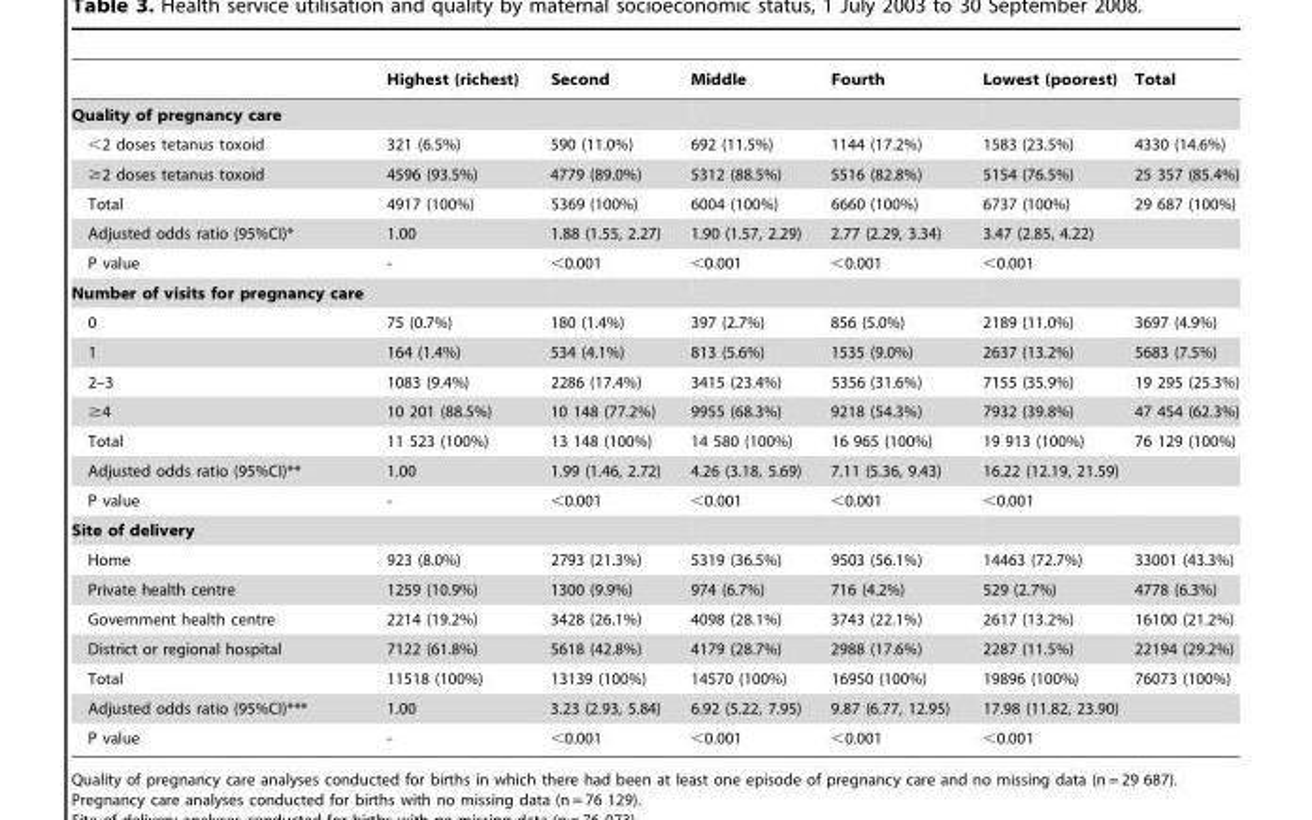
<table><thead><tr><td></td><td>Highest (richest)</td><td>Second</td><td>Middle</td><td>Fourth</td><td>Lowest (poorest)</td><td>Total</td></tr></thead><tbody><tr><td colspan="7">Quality of pregnancy care</td></tr><tr><td>&lt;2 doses tetanus toxoid</td><td>321 (6.5%)</td><td>590 (11.0%)</td><td>692 (11.5%)</td><td>1144 (17.2%)</td><td>1583 (23.5%)</td><td>4330 (14.6%)</td></tr><tr><td>≥2 doses tetanus toxoid</td><td>4596 (93.5%)</td><td>4779 (89.0%)</td><td>5312 (88.5%)</td><td>5516 (82.8%)</td><td>5154 (76.5%)</td><td>25 357 (85.4%)</td></tr><tr><td>Total</td><td>4917 (100%)</td><td>5369 (100%)</td><td>6004 (100%)</td><td>6660 (100%)</td><td>6737 (100%)</td><td>29 687 (100%)</td></tr><tr><td>Adjusted odds ratio (95%CI)*</td><td>1.00</td><td>1.88 (1.55, 2.27)</td><td>1.90 (1.57, 2.29)</td><td>2.77 (2.29, 3.34)</td><td>3.47 (2.85, 4.22)</td><td></td></tr><tr><td>P value</td><td>-</td><td>&lt;0.001</td><td>&lt;0.001</td><td>&lt;0.001</td><td>&lt;0.001</td><td></td></tr><tr><td colspan="7">Number of visits for pregnancy care</td></tr><tr><td>0</td><td>75 (0.7%)</td><td>180 (1.4%)</td><td>397 (2.7%)</td><td>856 (5.0%)</td><td>2189 (11.0%)</td><td>3697 (4.9%)</td></tr><tr><td>1</td><td>164 (1.4%)</td><td>534 (4.1%)</td><td>813 (5.6%)</td><td>1535 (9.0%)</td><td>2637 (13.2%)</td><td>5683 (7.5%)</td></tr><tr><td>2–3</td><td>1083 (9.4%)</td><td>2286 (17.4%)</td><td>3415 (23.4%)</td><td>5356 (31.6%)</td><td>7155 (35.9%)</td><td>19 295 (25.3%)</td></tr><tr><td>≥4</td><td>10 201 (88.5%)</td><td>10 148 (77.2%)</td><td>9955 (68.3%)</td><td>9218 (54.3%)</td><td>7932 (39.8%)</td><td>47 454 (62.3%)</td></tr><tr><td>Total</td><td>11 523 (100%)</td><td>13 148 (100%)</td><td>14 580 (100%)</td><td>16 965 (100%)</td><td>19 913 (100%)</td><td>76 129 (100%)</td></tr><tr><td>Adjusted odds ratio (95%CI)**</td><td>1.00</td><td>1.99 (1.46, 2.72)</td><td>4.26 (3.18, 5.69)</td><td>7.11 (5.36, 9.43)</td><td>16.22 (12.19, 21.59)</td><td></td></tr><tr><td>P value</td><td>-</td><td>&lt;0.001</td><td>&lt;0.001</td><td>&lt;0.001</td><td>&lt;0.001</td><td></td></tr><tr><td colspan="7">Site of delivery</td></tr><tr><td>Home</td><td>923 (8.0%)</td><td>2793 (21.3%)</td><td>5319 (36.5%)</td><td>9503 (56.1%)</td><td>14463 (72.7%)</td><td>33001 (43.3%)</td></tr><tr><td>Private health centre</td><td>1259 (10.9%)</td><td>1300 (9.9%)</td><td>974 (6.7%)</td><td>716 (4.2%)</td><td>529 (2.7%)</td><td>4778 (6.3%)</td></tr><tr><td>Government health centre</td><td>2214 (19.2%)</td><td>3428 (26.1%)</td><td>4098 (28.1%)</td><td>3743 (22.1%)</td><td>2617 (13.2%)</td><td>16100 (21.2%)</td></tr><tr><td>District or regional hospital</td><td>7122 (61.8%)</td><td>5618 (42.8%)</td><td>4179 (28.7%)</td><td>2988 (17.6%)</td><td>2287 (11.5%)</td><td>22194 (29.2%)</td></tr><tr><td>Total</td><td>11518 (100%)</td><td>13139 (100%)</td><td>14570 (100%)</td><td>16950 (100%)</td><td>19896 (100%)</td><td>76073 (100%)</td></tr><tr><td>Adjusted odds ratio (95%CI)***</td><td>1.00</td><td>3.23 (2.93, 5.84)</td><td>6.92 (5.22, 7.95)</td><td>9.87 (6.77, 12.95)</td><td>17.98 (11.82, 23.90)</td><td></td></tr><tr><td>P value</td><td>-</td><td>&lt;0.001</td><td>&lt;0.001</td><td>&lt;0.001</td><td>&lt;0.001</td><td></td></tr></tbody></table>